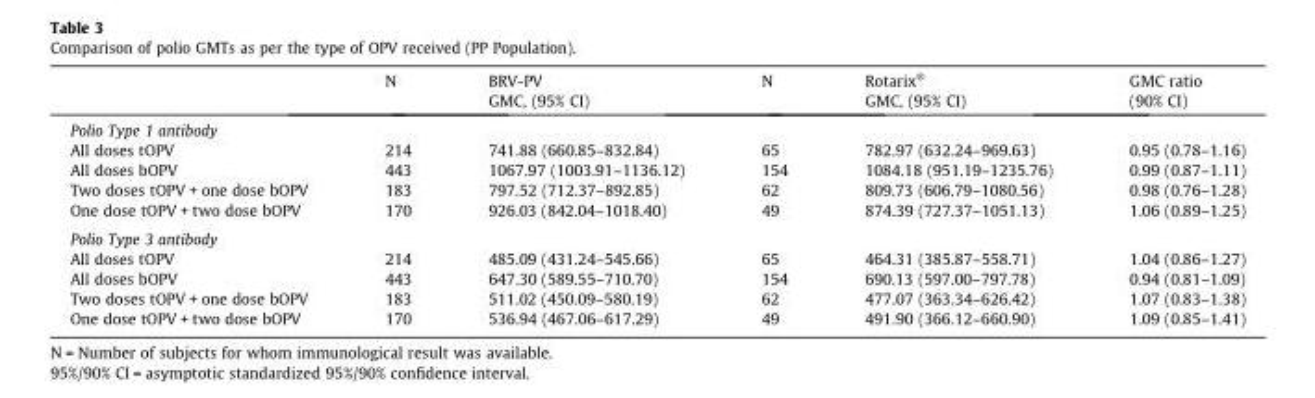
<table><thead><tr><td></td><td>N</td><td>BRV-PV GMC, (95% CI)</td><td>N</td><td>Rotarix® GMC, (95% CI)</td><td>GMC ratio (90% CI)</td></tr></thead><tbody><tr><td colspan="6">Polio Type 1 antibody</td></tr><tr><td>All doses tOPV</td><td>214</td><td>741.88 (660.85–832.84)</td><td>65</td><td>782.97 (632.24–969.63)</td><td>0.95 (0.78–1.16)</td></tr><tr><td>All doses bOPV</td><td>443</td><td>1067.97 (1003.91–1136.12)</td><td>154</td><td>1084.18 (951.19–1235.76)</td><td>0.99 (0.87–1.11)</td></tr><tr><td>Two doses tOPV + one dose bOPV</td><td>183</td><td>797.52 (712.37–892.85)</td><td>62</td><td>809.73 (606.79–1080.56)</td><td>0.98 (0.76–1.28)</td></tr><tr><td>One dose tOPV + two dose bOPV</td><td>170</td><td>926.03 (842.04–1018.40)</td><td>49</td><td>874.39 (727.37–1051.13)</td><td>1.06 (0.89–1.25)</td></tr><tr><td colspan="6">Polio Type 3 antibody</td></tr><tr><td>All doses tOPV</td><td>214</td><td>485.09 (431.24–545.66)</td><td>65</td><td>464.31 (385.87–558.71)</td><td>1.04 (0.86–1.27)</td></tr><tr><td>All doses bOPV</td><td>443</td><td>647.30 (589.55–710.70)</td><td>154</td><td>690.13 (597.00–797.78)</td><td>0.94 (0.81–1.09)</td></tr><tr><td>Two doses tOPV + one dose bOPV</td><td>183</td><td>511.02 (450.09–580.19)</td><td>62</td><td>477.07 (363.34–626.42)</td><td>1.07 (0.83–1.38)</td></tr><tr><td>One dose tOPV + two dose bOPV</td><td>170</td><td>536.94 (467.06–617.29)</td><td>49</td><td>491.90 (366.12–660.90)</td><td>1.09 (0.85–1.41)</td></tr></tbody></table>